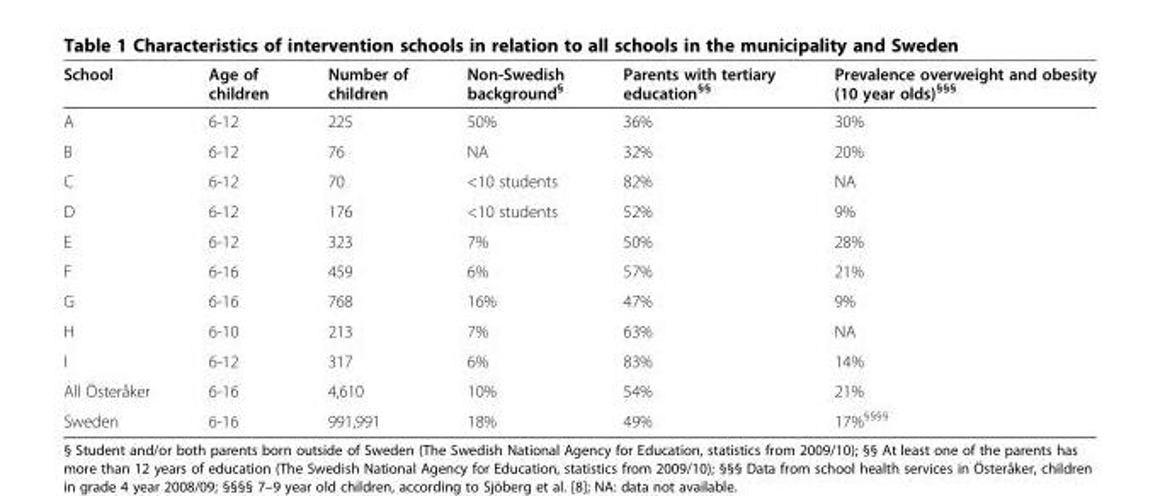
<table><thead><tr><td>School</td><td>Age of children</td><td>Number of children</td><td>Non-Swedish background<sup>§</sup></td><td>Parents with tertiary education<sup>§§</sup></td><td>Prevalence overweight and obesity (10 year olds)<sup>§§§</sup></td></tr></thead><tbody><tr><td>A</td><td>6-12</td><td>225</td><td>50%</td><td>36%</td><td>30%</td></tr><tr><td>B</td><td>6-12</td><td>76</td><td>NA</td><td>32%</td><td>20%</td></tr><tr><td>C</td><td>6-12</td><td>70</td><td>&lt;10 students</td><td>82%</td><td>NA</td></tr><tr><td>D</td><td>6-12</td><td>176</td><td>&lt;10 students</td><td>52%</td><td>9%</td></tr><tr><td>E</td><td>6-12</td><td>323</td><td>7%</td><td>50%</td><td>28%</td></tr><tr><td>F</td><td>6-16</td><td>459</td><td>6%</td><td>57%</td><td>21%</td></tr><tr><td>G</td><td>6-16</td><td>768</td><td>16%</td><td>47%</td><td>9%</td></tr><tr><td>H</td><td>6-10</td><td>213</td><td>7%</td><td>63%</td><td>NA</td></tr><tr><td>I</td><td>6-12</td><td>317</td><td>6%</td><td>83%</td><td>14%</td></tr><tr><td>All Österåker</td><td>6-16</td><td>4,610</td><td>10%</td><td>54%</td><td>21%</td></tr><tr><td>Sweden</td><td>6-16</td><td>991,991</td><td>18%</td><td>49%</td><td>17%<sup>§§§§</sup></td></tr></tbody></table>